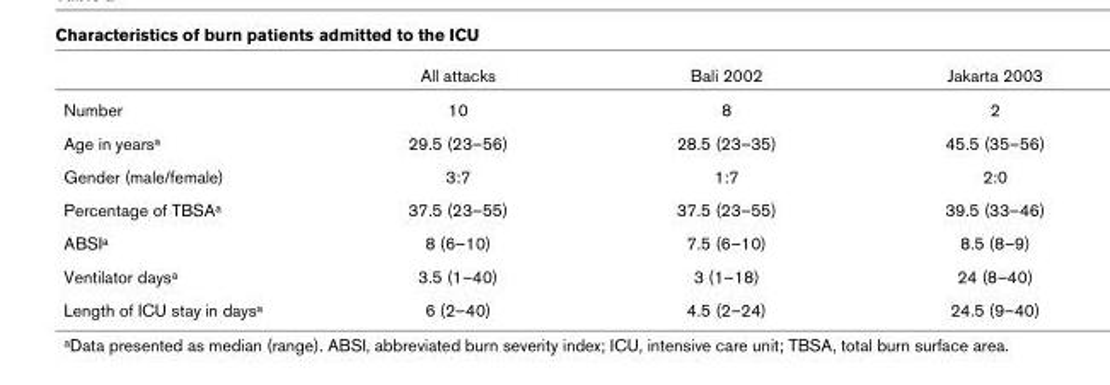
<table><thead><tr><td></td><td>All attacks</td><td>Bali 2002</td><td>Jakarta 2003</td></tr></thead><tbody><tr><td>Number</td><td>10</td><td>8</td><td>2</td></tr><tr><td>Age in years<sup>a</sup></td><td>29.5 (23–56)</td><td>28.5 (23–35)</td><td>45.5 (35–56)</td></tr><tr><td>Gender (male/female)</td><td>3:7</td><td>1:7</td><td>2:0</td></tr><tr><td>Percentage of TBSA<sup>a</sup></td><td>37.5 (23–55)</td><td>37.5 (23–55)</td><td>39.5 (33–46)</td></tr><tr><td>ABSI<sup>a</sup></td><td>8 (6–10)</td><td>7.5 (6–10)</td><td>8.5 (8–9)</td></tr><tr><td>Ventilator days<sup>a</sup></td><td>3.5 (1–40)</td><td>3 (1–18)</td><td>24 (8–40)</td></tr><tr><td>Length of ICU stay in days<sup>a</sup></td><td>6 (2–40)</td><td>4.5 (2–24)</td><td>24.5 (9–40)</td></tr></tbody></table>